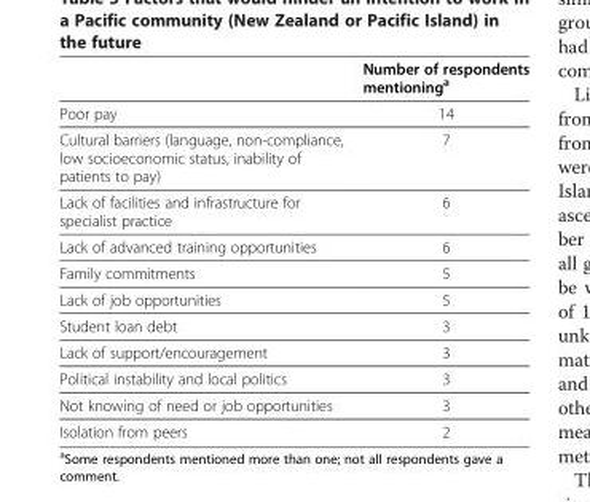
<table><thead><tr><td></td><td>Number of respondents mentioning<sup>a</sup></td></tr></thead><tbody><tr><td>Poor pay</td><td>14</td></tr><tr><td>Cultural barriers (language, non-compliance, low socioeconomic status, inability of patients to pay)</td><td>7</td></tr><tr><td>Lack of facilities and infrastructure for specialist practice</td><td>6</td></tr><tr><td>Lack of advanced training opportunities</td><td>6</td></tr><tr><td>Family commitments</td><td>5</td></tr><tr><td>Lack of job opportunities</td><td>5</td></tr><tr><td>Student loan debt</td><td>3</td></tr><tr><td>Lack of support/encouragement</td><td>3</td></tr><tr><td>Political instability and local politics</td><td>3</td></tr><tr><td>Not knowing of need or job opportunities</td><td>3</td></tr><tr><td>Isolation from peers</td><td>2</td></tr></tbody></table>